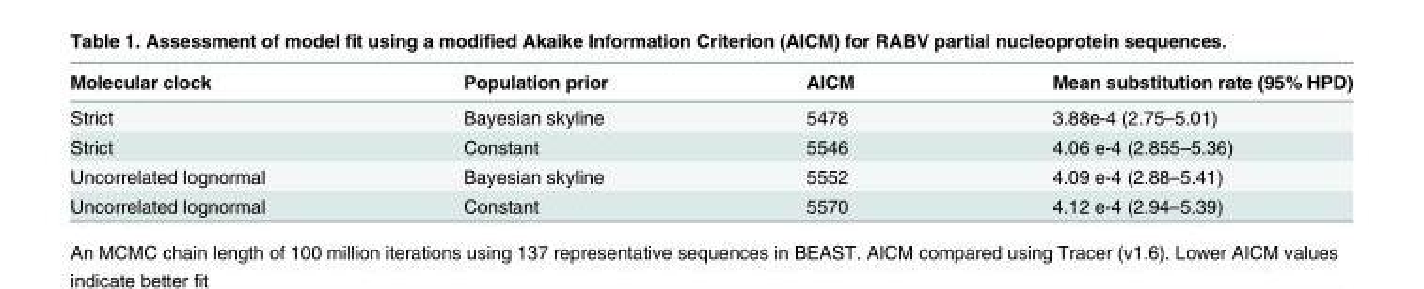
<table><thead><tr><td>Molecular clock</td><td>Population prior</td><td>AICM</td><td>Mean substitution rate (95% HPD)</td></tr></thead><tbody><tr><td>Strict</td><td>Bayesian skyline</td><td>5478</td><td>3.88e-4 (2.75–5.01)</td></tr><tr><td>Strict</td><td>Constant</td><td>5546</td><td>4.06 e-4 (2.855–5.36)</td></tr><tr><td>Uncorrelated lognormal</td><td>Bayesian skyline</td><td>5552</td><td>4.09 e-4 (2.88–5.41)</td></tr><tr><td>Uncorrelated lognormal</td><td>Constant</td><td>5570</td><td>4.12 e-4 (2.94–5.39)</td></tr></tbody></table>